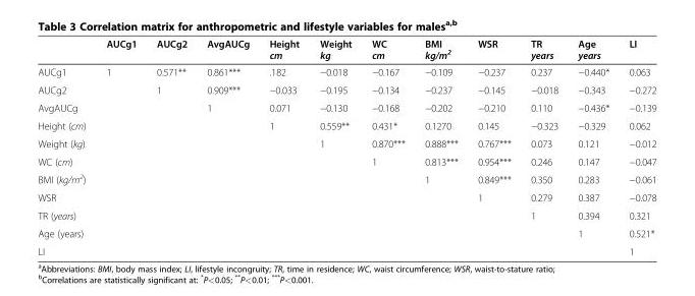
<table><thead><tr><td></td><td>AUCg1</td><td>AUCg2</td><td>AvgAUCg</td><td>Height cm</td><td>Weight kg</td><td>WC cm</td><td>BMI kg/m<sup>2</sup></td><td>WSR</td><td>TR years</td><td>Age years</td><td>LI</td></tr></thead><tbody><tr><td>AUCg1</td><td>1</td><td>0.571**</td><td>0.861***</td><td>.182</td><td>−0.018</td><td>−0.167</td><td>−0.109</td><td>−0.237</td><td>0.237</td><td>−0.440*</td><td>0.063</td></tr><tr><td>AUCg2</td><td></td><td>1</td><td>0.909***</td><td>−0.033</td><td>−0.195</td><td>−0.134</td><td>−0.237</td><td>−0.145</td><td>−0.018</td><td>−0.343</td><td>−0.272</td></tr><tr><td>AvgAUCg</td><td></td><td></td><td>1</td><td>0.071</td><td>−0.130</td><td>−0.168</td><td>−0.202</td><td>−0.210</td><td>0.110</td><td>−0.436*</td><td>−0.139</td></tr><tr><td>Height (cm)</td><td></td><td></td><td></td><td>1</td><td>0.559**</td><td>0.431*</td><td>0.1270</td><td>0.145</td><td>−0.323</td><td>−0.329</td><td>0.062</td></tr><tr><td>Weight (kg)</td><td></td><td></td><td></td><td></td><td>1</td><td>0.870***</td><td>0.888***</td><td>0.767***</td><td>0.073</td><td>0.121</td><td>−0.012</td></tr><tr><td>WC (cm)</td><td></td><td></td><td></td><td></td><td></td><td>1</td><td>0.813***</td><td>0.954***</td><td>0.246</td><td>0.147</td><td>−0.047</td></tr><tr><td>BMI (kg/m<sup>2</sup>)</td><td></td><td></td><td></td><td></td><td></td><td></td><td>1</td><td>0.849***</td><td>0.350</td><td>0.283</td><td>−0.061</td></tr><tr><td>WSR</td><td></td><td></td><td></td><td></td><td></td><td></td><td></td><td>1</td><td>0.279</td><td>0.387</td><td>−0.078</td></tr><tr><td>TR (years)</td><td></td><td></td><td></td><td></td><td></td><td></td><td></td><td></td><td>1</td><td>0.394</td><td>0.321</td></tr><tr><td>Age (years)</td><td></td><td></td><td></td><td></td><td></td><td></td><td></td><td></td><td></td><td>1</td><td>0.521*</td></tr><tr><td>LI</td><td></td><td></td><td></td><td></td><td></td><td></td><td></td><td></td><td></td><td></td><td>1</td></tr></tbody></table>